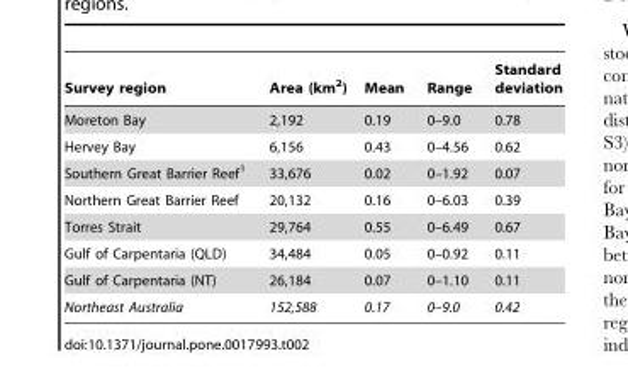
<table><thead><tr><td>Survey region</td><td>Area (km<sup>2</sup>)</td><td>Mean</td><td>Range</td><td>Standard deviation</td></tr></thead><tbody><tr><td>Moreton Bay</td><td>2,192</td><td>0.19</td><td>0–9.0</td><td>0.78</td></tr><tr><td>Hervey Bay</td><td>6,156</td><td>0.43</td><td>0–4.56</td><td>0.62</td></tr><tr><td>Southern Great Barrier Reef<sup>1</sup></td><td>33,676</td><td>0.02</td><td>0–1.92</td><td>0.07</td></tr><tr><td>Northern Great Barrier Reef</td><td>20,132</td><td>0.16</td><td>0–6.03</td><td>0.39</td></tr><tr><td>Torres Strait</td><td>29,764</td><td>0.55</td><td>0–6.49</td><td>0.67</td></tr><tr><td>Gulf of Carpentaria (QLD)</td><td>34,484</td><td>0.05</td><td>0–0.92</td><td>0.11</td></tr><tr><td>Gulf of Carpentaria (NT)</td><td>26,184</td><td>0.07</td><td>0–1.10</td><td>0.11</td></tr><tr><td>Northeast Australia</td><td>152,588</td><td>0.17</td><td>0–9.0</td><td>0.42</td></tr></tbody></table>